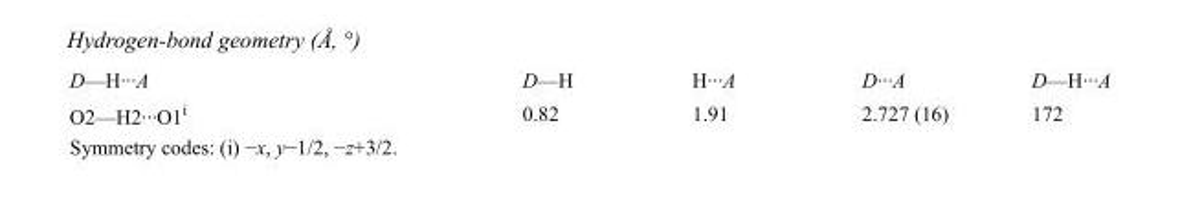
<table><tbody><tr><td>D—H···A</td><td>D—H</td><td>H···A</td><td>D···A</td><td>D—H···A</td></tr><tr><td>O2—H2···O1<sup>i</sup></td><td>0.82</td><td>1.91</td><td>2.727 (16)</td><td>172</td></tr></tbody></table>